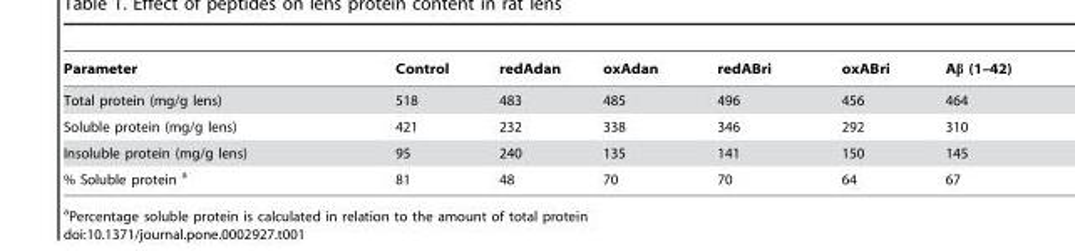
<table><thead><tr><td>Parameter</td><td>Control</td><td>redAdan</td><td>oxAdan</td><td>redABri</td><td>oxABri</td><td>Aβ (1–42)</td></tr></thead><tbody><tr><td>Total protein (mg/g lens)</td><td>518</td><td>483</td><td>485</td><td>496</td><td>456</td><td>464</td></tr><tr><td>Soluble protein (mg/g lens)</td><td>421</td><td>232</td><td>338</td><td>346</td><td>292</td><td>310</td></tr><tr><td>Insoluble protein (mg/g lens)</td><td>95</td><td>240</td><td>135</td><td>141</td><td>150</td><td>145</td></tr><tr><td>% Soluble protein a</td><td>81</td><td>48</td><td>70</td><td>70</td><td>64</td><td>67</td></tr></tbody></table>